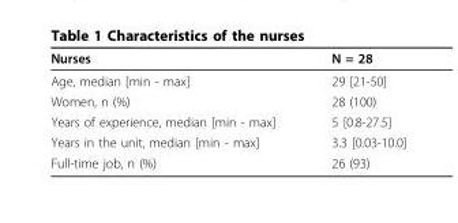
<table><thead><tr><td>Nurses</td><td>N = 28</td></tr></thead><tbody><tr><td>Age, median [min - max]</td><td>29 [21-50]</td></tr><tr><td>Women, n (%)</td><td>28 (100)</td></tr><tr><td>Years of experience, median [min - max]</td><td>5 [0.8-27.5]</td></tr><tr><td>Years in the unit, median [min - max]</td><td>3.3 [0.03-10.0]</td></tr><tr><td>Full-time job, n (%)</td><td>26 (93)</td></tr></tbody></table>